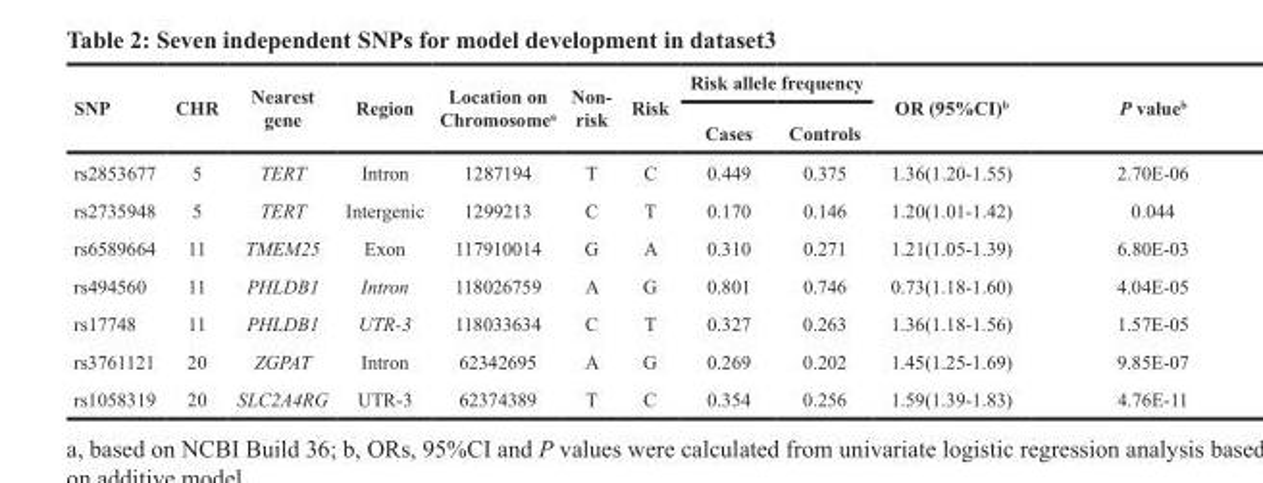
<table><thead><tr><td rowspan="2">SNP</td><td rowspan="2">CHR</td><td rowspan="2">Nearest gene</td><td rowspan="2">Region</td><td rowspan="2">Location on Chromosome<sup>a</sup></td><td rowspan="2">Non- risk</td><td rowspan="2">Risk</td><td colspan="2">Risk allele frequency</td><td rowspan="2">OR (95%CI)<sup>b</sup></td><td rowspan="2">P value<sup>b</sup></td></tr><tr><td>Cases</td><td>Controls</td></tr></thead><tbody><tr><td>rs2853677</td><td>5</td><td>TERT</td><td>Intron</td><td>1287194</td><td>T</td><td>C</td><td>0.449</td><td>0.375</td><td>1.36(1.20-1.55)</td><td>2.70E-06</td></tr><tr><td>rs2735948</td><td>5</td><td>TERT</td><td>Intergenic</td><td>1299213</td><td>C</td><td>T</td><td>0.170</td><td>0.146</td><td>1.20(1.01-1.42)</td><td>0.044</td></tr><tr><td>rs6589664</td><td>11</td><td>TMEM25</td><td>Exon</td><td>117910014</td><td>G</td><td>A</td><td>0.310</td><td>0.271</td><td>1.21(1.05-1.39)</td><td>6.80E-03</td></tr><tr><td>rs494560</td><td>11</td><td>PHLDB1</td><td>Intron</td><td>118026759</td><td>A</td><td>G</td><td>0.801</td><td>0.746</td><td>0.73(1.18-1.60)</td><td>4.04E-05</td></tr><tr><td>rs17748</td><td>11</td><td>PHLDB1</td><td>UTR-3</td><td>118033634</td><td>C</td><td>T</td><td>0.327</td><td>0.263</td><td>1.36(1.18-1.56)</td><td>1.57E-05</td></tr><tr><td>rs3761121</td><td>20</td><td>ZGPAT</td><td>Intron</td><td>62342695</td><td>A</td><td>G</td><td>0.269</td><td>0.202</td><td>1.45(1.25-1.69)</td><td>9.85E-07</td></tr><tr><td>rs1058319</td><td>20</td><td>SLC2A4RG</td><td>UTR-3</td><td>62374389</td><td>T</td><td>C</td><td>0.354</td><td>0.256</td><td>1.59(1.39-1.83)</td><td>4.76E-11</td></tr></tbody></table>